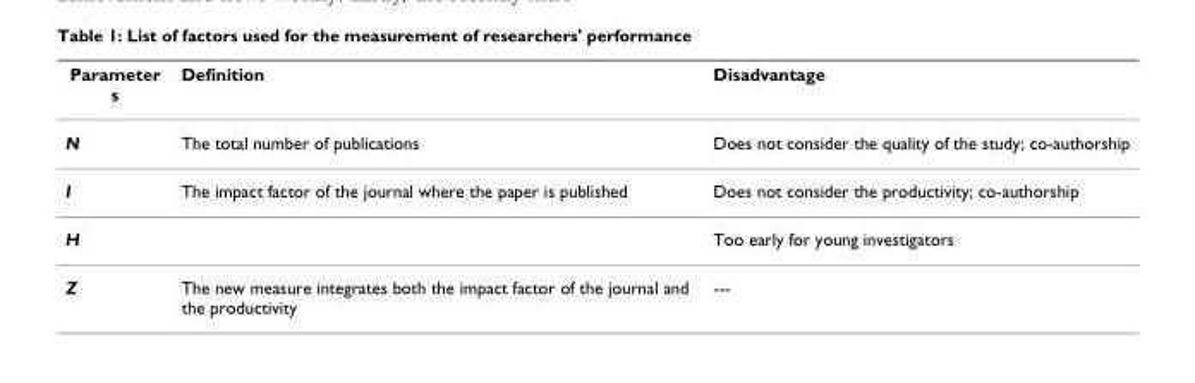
<table><thead><tr><td>Parameter s</td><td>Definition</td><td>Disadvantage</td></tr></thead><tbody><tr><td>N</td><td>The total number of publications</td><td>Does not consider the quality of the study; co-authorship</td></tr><tr><td>I</td><td>The impact factor of the journal where the paper is published</td><td>Does not consider the productivity; co-authorship</td></tr><tr><td>H</td><td></td><td>Too early for young investigators</td></tr><tr><td>Z</td><td>The new measure integrates both the impact factor of the journal and the productivity</td><td>---</td></tr></tbody></table>